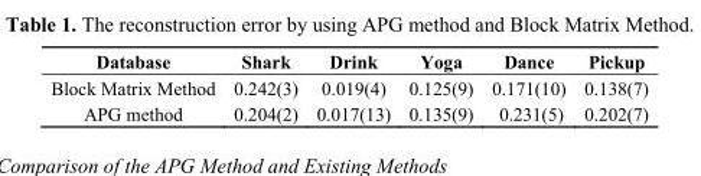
<table><thead><tr><td>Database</td><td>Shark</td><td>Drink</td><td>Yoga</td><td>Dance</td><td>Pickup</td></tr></thead><tbody><tr><td>Block Matrix Method</td><td>0.242(3)</td><td>0.019(4)</td><td>0.125(9)</td><td>0.171(10)</td><td>0.138(7)</td></tr><tr><td>APG method</td><td>0.204(2)</td><td>0.017(13)</td><td>0.135(9)</td><td>0.231(5)</td><td>0.202(7)</td></tr></tbody></table>